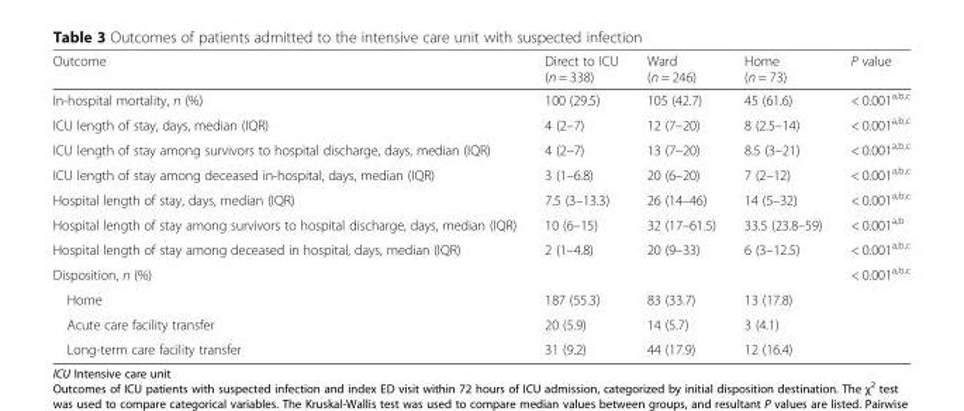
<table><thead><tr><td>Outcome</td><td>Direct to ICU (n = 338)</td><td>Ward (n = 246)</td><td>Home (n = 73)</td><td>P value</td></tr></thead><tbody><tr><td>In-hospital mortality, n (%)</td><td>100 (29.5)</td><td>105 (42.7)</td><td>45 (61.6)</td><td>&lt; 0.001<sup>a,b,c</sup></td></tr><tr><td>ICU length of stay, days, median (IQR)</td><td>4 (2–7)</td><td>12 (7–20)</td><td>8 (2.5–14)</td><td>&lt; 0.001<sup>a,b,c</sup></td></tr><tr><td>ICU length of stay among survivors to hospital discharge, days, median (IQR)</td><td>4 (2–7)</td><td>13 (7–20)</td><td>8.5 (3–21)</td><td>&lt; 0.001<sup>a,b,c</sup></td></tr><tr><td>ICU length of stay among deceased in-hospital, days, median (IQR)</td><td>3 (1–6.8)</td><td>20 (6–20)</td><td>7 (2–12)</td><td>&lt; 0.001<sup>a,b,c</sup></td></tr><tr><td>Hospital length of stay, days, median (IQR)</td><td>7.5 (3–13.3)</td><td>26 (14–46)</td><td>14 (5–32)</td><td>&lt; 0.001<sup>a,b,c</sup></td></tr><tr><td>Hospital length of stay among survivors to hospital discharge, days, median (IQR)</td><td>10 (6–15)</td><td>32 (17–61.5)</td><td>33.5 (23.8–59)</td><td>&lt; 0.001<sup>a,b</sup></td></tr><tr><td>Hospital length of stay among deceased in hospital, days, median (IQR)</td><td>2 (1–4.8)</td><td>20 (9–33)</td><td>6 (3–12.5)</td><td>&lt; 0.001<sup>a,b,c</sup></td></tr><tr><td colspan="4">Disposition, n (%)</td><td>&lt; 0.001<sup>a,b,c</sup></td></tr><tr><td>Home</td><td>187 (55.3)</td><td>83 (33.7)</td><td>13 (17.8)</td><td></td></tr><tr><td>Acute care facility transfer</td><td>20 (5.9)</td><td>14 (5.7)</td><td>3 (4.1)</td><td></td></tr><tr><td>Long-term care facility transfer</td><td>31 (9.2)</td><td>44 (17.9)</td><td>12 (16.4)</td><td></td></tr></tbody></table>